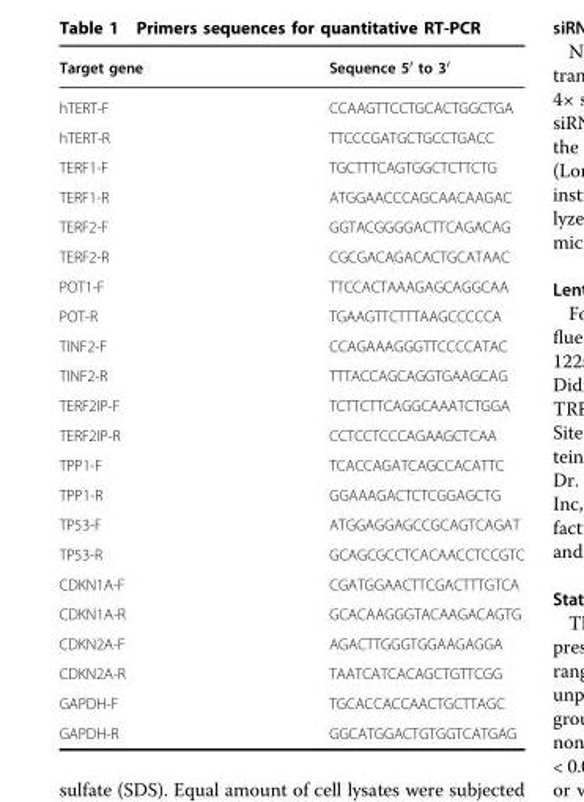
<table><thead><tr><td>Target gene</td><td>Sequence 5′ to 3′</td></tr></thead><tbody><tr><td>hTERT-F</td><td>CCAAGTTCCTGCACTGGCTGA</td></tr><tr><td>hTERT-R</td><td>TTCCCGATGCTGCCTGACC</td></tr><tr><td>TERF1-F</td><td>TGCTTTCAGTGGCTCTTCTG</td></tr><tr><td>TERF1-R</td><td>ATGGAACCCAGCAACAAGAC</td></tr><tr><td>TERF2-F</td><td>GGTACGGGGACTTCAGACAG</td></tr><tr><td>TERF2-R</td><td>CGCGACAGACACTGCATAAC</td></tr><tr><td>POT1-F</td><td>TTCCACTAAAGAGCAGGCAA</td></tr><tr><td>POT-R</td><td>TGAAGTTCTTTAAGCCCCCA</td></tr><tr><td>TINF2-F</td><td>CCAGAAAGGGTTCCCCATAC</td></tr><tr><td>TINF2-R</td><td>TTTACCAGCAGGTGAAGCAG</td></tr><tr><td>TERF2IP-F</td><td>TCTTCTTCAGGCAAATCTGGA</td></tr><tr><td>TERF2IP-R</td><td>CCTCCTCCCAGAAGCTCAA</td></tr><tr><td>TPP1-F</td><td>TCACCAGATCAGCCACATTC</td></tr><tr><td>TPP1-R</td><td>GGAAAGACTCTCGGAGCTG</td></tr><tr><td>TP53-F</td><td>ATGGAGGAGCCGCAGTCAGAT</td></tr><tr><td>TP53-R</td><td>GCAGCGCCTCACAACCTCCGTC</td></tr><tr><td>CDKN1A-F</td><td>CGATGGAACTTCGACTTTGTCA</td></tr><tr><td>CDKN1A-R</td><td>GCACAAGGGTACAAGACAGTG</td></tr><tr><td>CDKN2A-F</td><td>AGACTTGGGTGGAAGAGGA</td></tr><tr><td>CDKN2A-R</td><td>TAATCATCACAGCTGTTCGG</td></tr><tr><td>GAPDH-F</td><td>TGCACCACCAACTGCTTAGC</td></tr><tr><td>GAPDH-R</td><td>GGCATGGACTGTGGTCATGAG</td></tr></tbody></table>